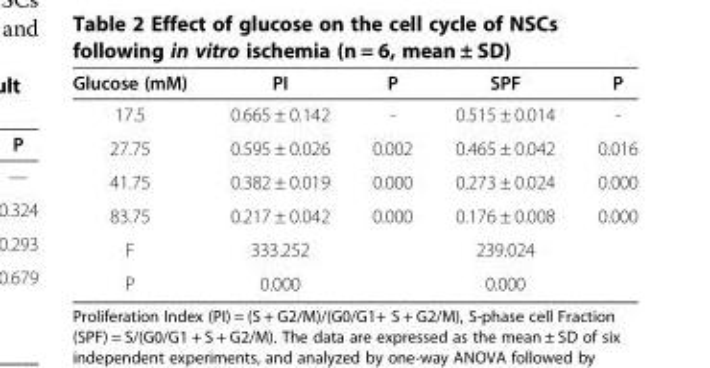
<table><thead><tr><td>Glucose (mM)</td><td>PI</td><td>P</td><td>SPF</td><td>P</td></tr></thead><tbody><tr><td>17.5</td><td>0.665 ± 0.142</td><td>-</td><td>0.515 ± 0.014</td><td>-</td></tr><tr><td>27.75</td><td>0.595 ± 0.026</td><td>0.002</td><td>0.465 ± 0.042</td><td>0.016</td></tr><tr><td>41.75</td><td>0.382 ± 0.019</td><td>0.000</td><td>0.273 ± 0.024</td><td>0.000</td></tr><tr><td>83.75</td><td>0.217 ± 0.042</td><td>0.000</td><td>0.176 ± 0.008</td><td>0.000</td></tr><tr><td>F</td><td>333.252</td><td></td><td>239.024</td><td></td></tr><tr><td>P</td><td>0.000</td><td></td><td>0.000</td><td></td></tr></tbody></table>